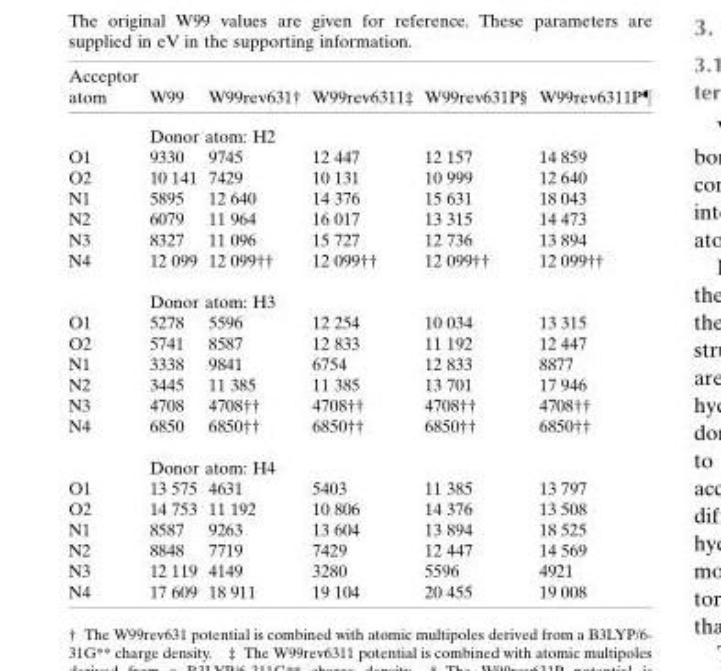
<table><thead><tr><td>Acceptor atom</td><td>W99</td><td>W99rev631†</td><td>W99rev6311‡</td><td>W99rev631P§</td><td>W99rev6311P¶</td></tr></thead><tbody><tr><td></td><td colspan="5">Donor atom: H2</td></tr><tr><td>O1</td><td>9330</td><td>9745</td><td>12 447</td><td>12 157</td><td>14 859</td></tr><tr><td>O2</td><td>10 141</td><td>7429</td><td>10 131</td><td>10 999</td><td>12 640</td></tr><tr><td>N1</td><td>5895</td><td>12 640</td><td>14 376</td><td>15 631</td><td>18 043</td></tr><tr><td>N2</td><td>6079</td><td>11 964</td><td>16 017</td><td>13 315</td><td>14 473</td></tr><tr><td>N3</td><td>8327</td><td>11 096</td><td>15 727</td><td>12 736</td><td>13 894</td></tr><tr><td rowspan="2">N4</td><td>12 099</td><td>12 099††</td><td>12 099††</td><td>12 099††</td><td>12 099††</td></tr><tr><td colspan="5">Donor atom: H3</td></tr><tr><td>O1</td><td>5278</td><td>5596</td><td>12 254</td><td>10 034</td><td>13 315</td></tr><tr><td>O2</td><td>5741</td><td>8587</td><td>12 833</td><td>11 192</td><td>12 447</td></tr><tr><td>N1</td><td>3338</td><td>9841</td><td>6754</td><td>12 833</td><td>8877</td></tr><tr><td>N2</td><td>3445</td><td>11 385</td><td>11 385</td><td>13 701</td><td>17 946</td></tr><tr><td>N3</td><td>4708</td><td>4708††</td><td>4708††</td><td>4708††</td><td>4708††</td></tr><tr><td rowspan="2">N4</td><td>6850</td><td>6850††</td><td>6850††</td><td>6850††</td><td>6850††</td></tr><tr><td colspan="5">Donor atom: H4</td></tr><tr><td>O1</td><td>13 575</td><td>4631</td><td>5403</td><td>11 385</td><td>13 797</td></tr><tr><td>O2</td><td>14 753</td><td>11 192</td><td>10 806</td><td>14 376</td><td>13 508</td></tr><tr><td>N1</td><td>8587</td><td>9263</td><td>13 604</td><td>13 894</td><td>18 525</td></tr><tr><td>N2</td><td>8848</td><td>7719</td><td>7429</td><td>12 447</td><td>14 569</td></tr><tr><td>N3</td><td>12 119</td><td>4149</td><td>3280</td><td>5596</td><td>4921</td></tr><tr><td>N4</td><td>17 609</td><td>18 911</td><td>19 104</td><td>20 455</td><td>19 008</td></tr></tbody></table>